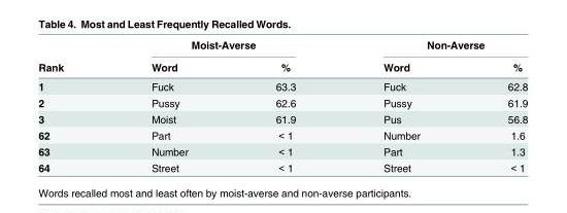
<table><thead><tr><td rowspan="2">Rank</td><td colspan="2">Moist-Averse</td><td colspan="2">Non-Averse</td></tr><tr><td>Word</td><td>%</td><td>Word</td><td>%</td></tr></thead><tbody><tr><td>1</td><td>Fuck</td><td>63.3</td><td>Fuck</td><td>62.8</td></tr><tr><td>2</td><td>Pussy</td><td>62.6</td><td>Pussy</td><td>61.9</td></tr><tr><td>3</td><td>Moist</td><td>61.9</td><td>Pus</td><td>56.8</td></tr><tr><td>62</td><td>Part</td><td>&lt; 1</td><td>Number</td><td>1.6</td></tr><tr><td>63</td><td>Number</td><td>&lt; 1</td><td>Part</td><td>1.3</td></tr><tr><td>64</td><td>Street</td><td>&lt; 1</td><td>Street</td><td>&lt; 1</td></tr></tbody></table>